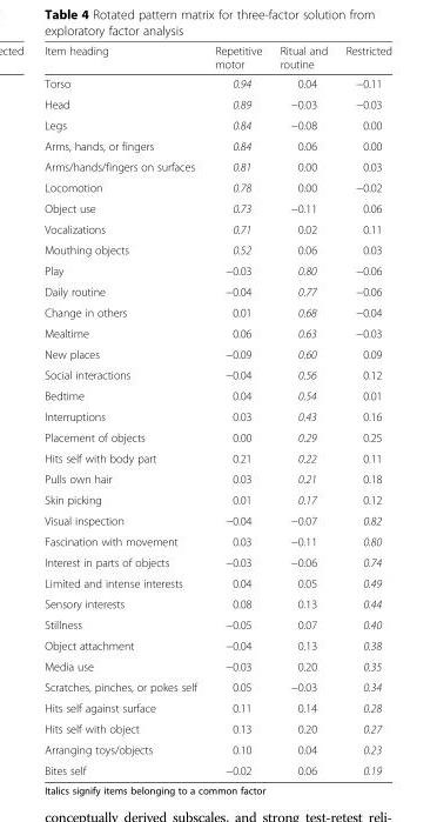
<table><thead><tr><td>Item heading</td><td>Repetitive motor</td><td>Ritual and routine</td><td>Restricted</td></tr></thead><tbody><tr><td>Torso</td><td>0.94</td><td>0.04</td><td>−0.11</td></tr><tr><td>Head</td><td>0.89</td><td>−0.03</td><td>−0.03</td></tr><tr><td>Legs</td><td>0.84</td><td>−0.08</td><td>0.00</td></tr><tr><td>Arms, hands, or fingers</td><td>0.84</td><td>0.06</td><td>0.00</td></tr><tr><td>Arms/hands/fingers on surfaces</td><td>0.81</td><td>0.00</td><td>0.03</td></tr><tr><td>Locomotion</td><td>0.78</td><td>0.00</td><td>−0.02</td></tr><tr><td>Object use</td><td>0.73</td><td>−0.11</td><td>0.06</td></tr><tr><td>Vocalizations</td><td>0.71</td><td>0.02</td><td>0.11</td></tr><tr><td>Mouthing objects</td><td>0.52</td><td>0.06</td><td>0.03</td></tr><tr><td>Play</td><td>−0.03</td><td>0.80</td><td>−0.06</td></tr><tr><td>Daily routine</td><td>−0.04</td><td>0.77</td><td>−0.06</td></tr><tr><td>Change in others</td><td>0.01</td><td>0.68</td><td>−0.04</td></tr><tr><td>Mealtime</td><td>0.06</td><td>0.63</td><td>−0.03</td></tr><tr><td>New places</td><td>−0.09</td><td>0.60</td><td>0.09</td></tr><tr><td>Social interactions</td><td>−0.04</td><td>0.56</td><td>0.12</td></tr><tr><td>Bedtime</td><td>0.04</td><td>0.54</td><td>0.01</td></tr><tr><td>Interruptions</td><td>0.03</td><td>0.43</td><td>0.16</td></tr><tr><td>Placement of objects</td><td>0.00</td><td>0.29</td><td>0.25</td></tr><tr><td>Hits self with body part</td><td>0.21</td><td>0.22</td><td>0.11</td></tr><tr><td>Pulls own hair</td><td>0.03</td><td>0.21</td><td>0.18</td></tr><tr><td>Skin picking</td><td>0.01</td><td>0.17</td><td>0.12</td></tr><tr><td>Visual inspection</td><td>−0.04</td><td>−0.07</td><td>0.82</td></tr><tr><td>Fascination with movement</td><td>0.03</td><td>−0.11</td><td>0.80</td></tr><tr><td>Interest in parts of objects</td><td>−0.03</td><td>−0.06</td><td>0.74</td></tr><tr><td>Limited and intense interests</td><td>0.04</td><td>0.05</td><td>0.49</td></tr><tr><td>Sensory interests</td><td>0.08</td><td>0.13</td><td>0.44</td></tr><tr><td>Stillness</td><td>−0.05</td><td>0.07</td><td>0.40</td></tr><tr><td>Object attachment</td><td>−0.04</td><td>0.13</td><td>0.38</td></tr><tr><td>Media use</td><td>−0.03</td><td>0.20</td><td>0.35</td></tr><tr><td>Scratches, pinches, or pokes self</td><td>0.05</td><td>−0.03</td><td>0.34</td></tr><tr><td>Hits self against surface</td><td>0.11</td><td>0.14</td><td>0.28</td></tr><tr><td>Hits self with object</td><td>0.13</td><td>0.20</td><td>0.27</td></tr><tr><td>Arranging toys/objects</td><td>0.10</td><td>0.04</td><td>0.23</td></tr><tr><td>Bites self</td><td>−0.02</td><td>0.06</td><td>0.19</td></tr></tbody></table>